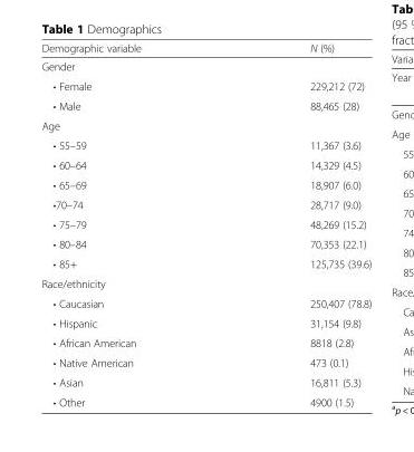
<table><thead><tr><td>Demographic variable</td><td>N (%)</td></tr></thead><tbody><tr><td colspan="2">Gender</td></tr><tr><td>• Female</td><td>229,212 (72)</td></tr><tr><td>• Male</td><td>88,465 (28)</td></tr><tr><td colspan="2">Age</td></tr><tr><td>• 55–59</td><td>11,367 (3.6)</td></tr><tr><td>• 60–64</td><td>14,329 (4.5)</td></tr><tr><td>• 65–69</td><td>18,907 (6.0)</td></tr><tr><td>•70–74</td><td>28,717 (9.0)</td></tr><tr><td>• 75–79</td><td>48,269 (15.2)</td></tr><tr><td>• 80–84</td><td>70,353 (22.1)</td></tr><tr><td>• 85+</td><td>125,735 (39.6)</td></tr><tr><td colspan="2">Race/ethnicity</td></tr><tr><td>• Caucasian</td><td>250,407 (78.8)</td></tr><tr><td>• Hispanic</td><td>31,154 (9.8)</td></tr><tr><td>• African American</td><td>8818 (2.8)</td></tr><tr><td>• Native American</td><td>473 (0.1)</td></tr><tr><td>• Asian</td><td>16,811 (5.3)</td></tr><tr><td>• Other</td><td>4900 (1.5)</td></tr></tbody></table>